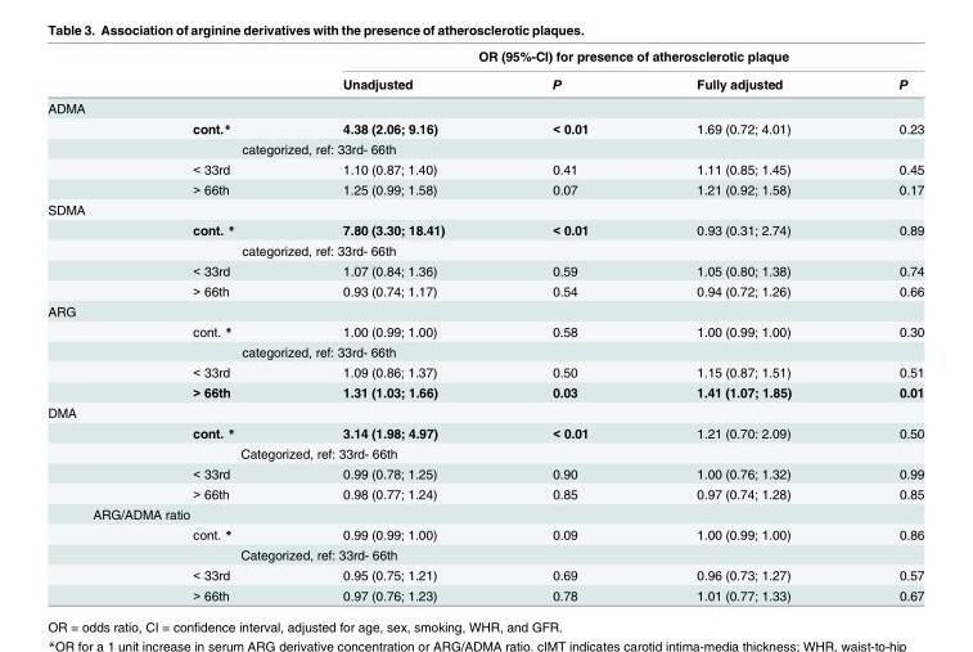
<table><thead><tr><td rowspan="2"></td><td rowspan="2"></td><td colspan="4">OR (95%-CI) for presence of atherosclerotic plaque</td></tr><tr><td>Unadjusted</td><td>P</td><td>Fully adjusted</td><td>P</td></tr></thead><tbody><tr><td colspan="6">ADMA</td></tr><tr><td></td><td>cont.*</td><td>4.38 (2.06; 9.16)</td><td>&lt; 0.01</td><td>1.69 (0.72; 4.01)</td><td>0.23</td></tr><tr><td></td><td colspan="2">categorized, ref: 33rd- 66th</td><td></td><td></td><td></td></tr><tr><td></td><td>&lt; 33rd</td><td>1.10 (0.87; 1.40)</td><td>0.41</td><td>1.11 (0.85; 1.45)</td><td>0.45</td></tr><tr><td></td><td>&gt; 66th</td><td>1.25 (0.99; 1.58)</td><td>0.07</td><td>1.21 (0.92; 1.58)</td><td>0.17</td></tr><tr><td colspan="6">SDMA</td></tr><tr><td></td><td>cont. *</td><td>7.80 (3.30; 18.41)</td><td>&lt; 0.01</td><td>0.93 (0.31; 2.74)</td><td>0.89</td></tr><tr><td></td><td colspan="2">categorized, ref: 33rd- 66th</td><td></td><td></td><td></td></tr><tr><td></td><td>&lt; 33rd</td><td>1.07 (0.84; 1.36)</td><td>0.59</td><td>1.05 (0.80; 1.38)</td><td>0.74</td></tr><tr><td></td><td>&gt; 66th</td><td>0.93 (0.74; 1.17)</td><td>0.54</td><td>0.94 (0.72; 1.26)</td><td>0.66</td></tr><tr><td colspan="6">ARG</td></tr><tr><td></td><td>cont. *</td><td>1.00 (0.99; 1.00)</td><td>0.58</td><td>1.00 (0.99; 1.00)</td><td>0.30</td></tr><tr><td></td><td colspan="2">categorized, ref: 33rd- 66th</td><td></td><td></td><td></td></tr><tr><td></td><td>&lt; 33rd</td><td>1.09 (0.86; 1.37)</td><td>0.50</td><td>1.15 (0.87; 1.51)</td><td>0.51</td></tr><tr><td></td><td>&gt; 66th</td><td>1.31 (1.03; 1.66)</td><td>0.03</td><td>1.41 (1.07; 1.85)</td><td>0.01</td></tr><tr><td colspan="6">DMA</td></tr><tr><td></td><td>cont. *</td><td>3.14 (1.98; 4.97)</td><td>&lt; 0.01</td><td>1.21 (0.70: 2.09)</td><td>0.50</td></tr><tr><td></td><td colspan="2">Categorized, ref: 33rd- 66th</td><td></td><td></td><td></td></tr><tr><td></td><td>&lt; 33rd</td><td>0.99 (0.78; 1.25)</td><td>0.90</td><td>1.00 (0.76; 1.32)</td><td>0.99</td></tr><tr><td></td><td>&gt; 66th</td><td>0.98 (0.77; 1.24)</td><td>0.85</td><td>0.97 (0.74; 1.28)</td><td>0.85</td></tr><tr><td colspan="6">ARG/ADMA ratio</td></tr><tr><td></td><td>cont. *</td><td>0.99 (0.99; 1.00)</td><td>0.09</td><td>1.00 (0.99; 1.00)</td><td>0.86</td></tr><tr><td></td><td colspan="2">Categorized, ref: 33rd- 66th</td><td></td><td></td><td></td></tr><tr><td></td><td>&lt; 33rd</td><td>0.95 (0.75; 1.21)</td><td>0.69</td><td>0.96 (0.73; 1.27)</td><td>0.57</td></tr><tr><td></td><td>&gt; 66th</td><td>0.97 (0.76; 1.23)</td><td>0.78</td><td>1.01 (0.77; 1.33)</td><td>0.67</td></tr></tbody></table>